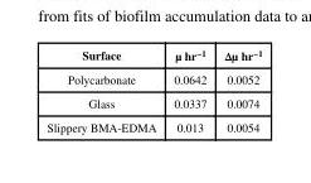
<table><thead><tr><td>Surface</td><td>μ hr<sup>−1</sup></td><td>Δμ hr<sup>−1</sup></td></tr></thead><tbody><tr><td>Polycarbonate</td><td>0.0642</td><td>0.0052</td></tr><tr><td>Glass</td><td>0.0337</td><td>0.0074</td></tr><tr><td>Slippery BMA-EDMA</td><td>0.013</td><td>0.0054</td></tr></tbody></table>